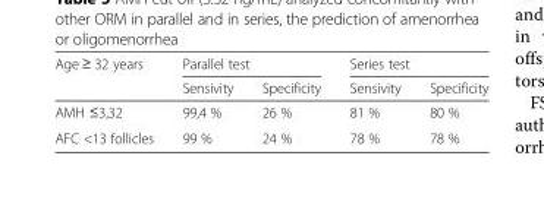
<table><thead><tr><td rowspan="2">Age ≥ 32 years</td><td colspan="2">Parallel test</td><td colspan="2">Series test</td></tr><tr><td>Sensivity</td><td>Specificity</td><td>Sensivity</td><td>Specificity</td></tr></thead><tbody><tr><td>AMH ≤3,32</td><td>99,4 %</td><td>26 %</td><td>81 %</td><td>80 %</td></tr><tr><td>AFC &lt;13 follicles</td><td>99 %</td><td>24 %</td><td>78 %</td><td>78 %</td></tr></tbody></table>